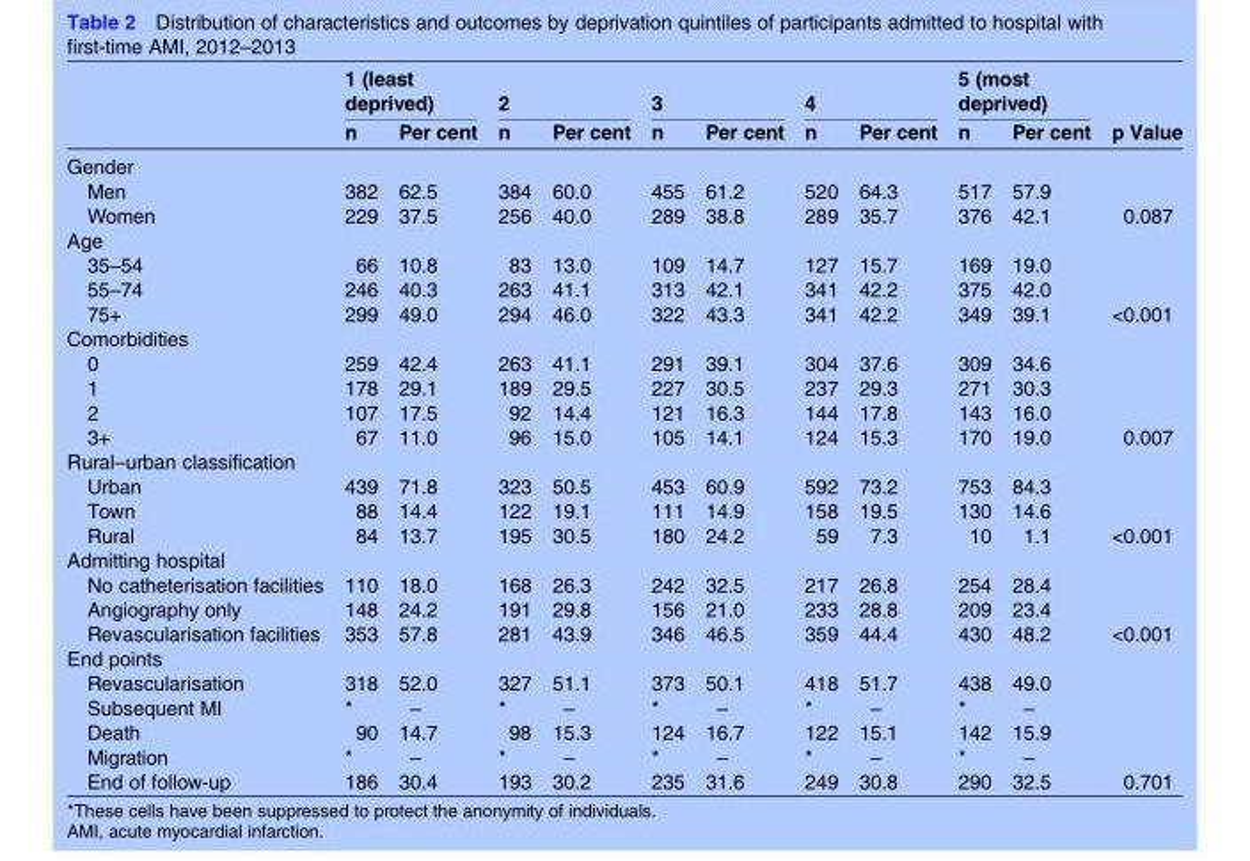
<table><thead><tr><td rowspan="2"></td><td colspan="2">1 (least deprived)</td><td colspan="2">2</td><td colspan="2">3</td><td colspan="2">4</td><td colspan="2">5 (most deprived)</td><td rowspan="2">p Value</td></tr><tr><td>n</td><td>Per cent</td><td>n</td><td>Per cent</td><td>n</td><td>Per cent</td><td>n</td><td>Per cent</td><td>n</td><td>Per cent</td></tr></thead><tbody><tr><td colspan="12">Gender</td></tr><tr><td>Men</td><td>382</td><td>62.5</td><td>384</td><td>60.0</td><td>455</td><td>61.2</td><td>520</td><td>64.3</td><td>517</td><td>57.9</td><td></td></tr><tr><td>Women</td><td>229</td><td>37.5</td><td>256</td><td>40.0</td><td>289</td><td>38.8</td><td>289</td><td>35.7</td><td>376</td><td>42.1</td><td>0.087</td></tr><tr><td colspan="12">Age</td></tr><tr><td>35–54</td><td>66</td><td>10.8</td><td>83</td><td>13.0</td><td>109</td><td>14.7</td><td>127</td><td>15.7</td><td>169</td><td>19.0</td><td></td></tr><tr><td>55–74</td><td>246</td><td>40.3</td><td>263</td><td>41.1</td><td>313</td><td>42.1</td><td>341</td><td>42.2</td><td>375</td><td>42.0</td><td></td></tr><tr><td>75+</td><td>299</td><td>49.0</td><td>294</td><td>46.0</td><td>322</td><td>43.3</td><td>341</td><td>42.2</td><td>349</td><td>39.1</td><td>&lt;0.001</td></tr><tr><td colspan="12">Comorbidities</td></tr><tr><td>0</td><td>259</td><td>42.4</td><td>263</td><td>41.1</td><td>291</td><td>39.1</td><td>304</td><td>37.6</td><td>309</td><td>34.6</td><td></td></tr><tr><td>1</td><td>178</td><td>29.1</td><td>189</td><td>29.5</td><td>227</td><td>30.5</td><td>237</td><td>29.3</td><td>271</td><td>30.3</td><td></td></tr><tr><td>2</td><td>107</td><td>17.5</td><td>92</td><td>14.4</td><td>121</td><td>16.3</td><td>144</td><td>17.8</td><td>143</td><td>16.0</td><td></td></tr><tr><td>3+</td><td>67</td><td>11.0</td><td>96</td><td>15.0</td><td>105</td><td>14.1</td><td>124</td><td>15.3</td><td>170</td><td>19.0</td><td>0.007</td></tr><tr><td colspan="12">Rural–urban classification</td></tr><tr><td>Urban</td><td>439</td><td>71.8</td><td>323</td><td>50.5</td><td>453</td><td>60.9</td><td>592</td><td>73.2</td><td>753</td><td>84.3</td><td></td></tr><tr><td>Town</td><td>88</td><td>14.4</td><td>122</td><td>19.1</td><td>111</td><td>14.9</td><td>158</td><td>19.5</td><td>130</td><td>14.6</td><td></td></tr><tr><td>Rural</td><td>84</td><td>13.7</td><td>195</td><td>30.5</td><td>180</td><td>24.2</td><td>59</td><td>7.3</td><td>10</td><td>1.1</td><td>&lt;0.001</td></tr><tr><td colspan="12">Admitting hospital</td></tr><tr><td>No catheterisation facilities</td><td>110</td><td>18.0</td><td>168</td><td>26.3</td><td>242</td><td>32.5</td><td>217</td><td>26.8</td><td>254</td><td>28.4</td><td></td></tr><tr><td>Angiography only</td><td>148</td><td>24.2</td><td>191</td><td>29.8</td><td>156</td><td>21.0</td><td>233</td><td>28.8</td><td>209</td><td>23.4</td><td></td></tr><tr><td>Revascularisation facilities</td><td>353</td><td>57.8</td><td>281</td><td>43.9</td><td>346</td><td>46.5</td><td>359</td><td>44.4</td><td>430</td><td>48.2</td><td>&lt;0.001</td></tr><tr><td colspan="12">End points</td></tr><tr><td>Revascularisation</td><td>318</td><td>52.0</td><td>327</td><td>51.1</td><td>373</td><td>50.1</td><td>418</td><td>51.7</td><td>438</td><td>49.0</td><td></td></tr><tr><td>Subsequent MI</td><td>*</td><td>–</td><td>*</td><td>–</td><td>*</td><td>–</td><td>*</td><td>–</td><td>*</td><td>–</td><td></td></tr><tr><td>Death</td><td>90</td><td>14.7</td><td>98</td><td>15.3</td><td>124</td><td>16.7</td><td>122</td><td>15.1</td><td>142</td><td>15.9</td><td></td></tr><tr><td>Migration</td><td>*</td><td>–</td><td>*</td><td>–</td><td>*</td><td>–</td><td>*</td><td>–</td><td>*</td><td>–</td><td></td></tr><tr><td>End of follow-up</td><td>186</td><td>30.4</td><td>193</td><td>30.2</td><td>235</td><td>31.6</td><td>249</td><td>30.8</td><td>290</td><td>32.5</td><td>0.701</td></tr></tbody></table>